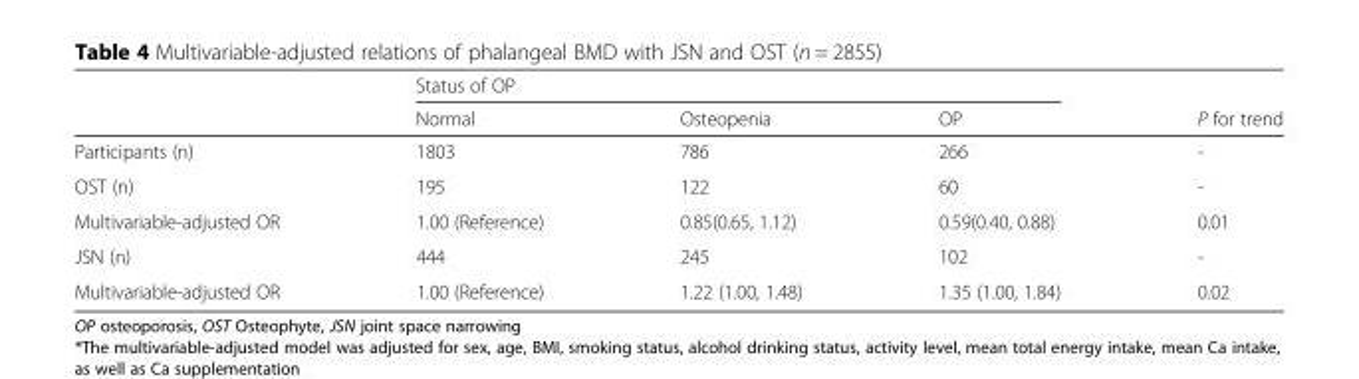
<table><thead><tr><td rowspan="2"></td><td colspan="3">Status of OP</td><td rowspan="2">P for trend</td></tr><tr><td>Normal</td><td>Osteopenia</td><td>OP</td></tr></thead><tbody><tr><td>Participants (n)</td><td>1803</td><td>786</td><td>266</td><td>-</td></tr><tr><td>OST (n)</td><td>195</td><td>122</td><td>60</td><td>-</td></tr><tr><td>Multivariable-adjusted OR</td><td>1.00 (Reference)</td><td>0.85(0.65, 1.12)</td><td>0.59(0.40, 0.88)</td><td>0.01</td></tr><tr><td>JSN (n)</td><td>444</td><td>245</td><td>102</td><td>-</td></tr><tr><td>Multivariable-adjusted OR</td><td>1.00 (Reference)</td><td>1.22 (1.00, 1.48)</td><td>1.35 (1.00, 1.84)</td><td>0.02</td></tr></tbody></table>